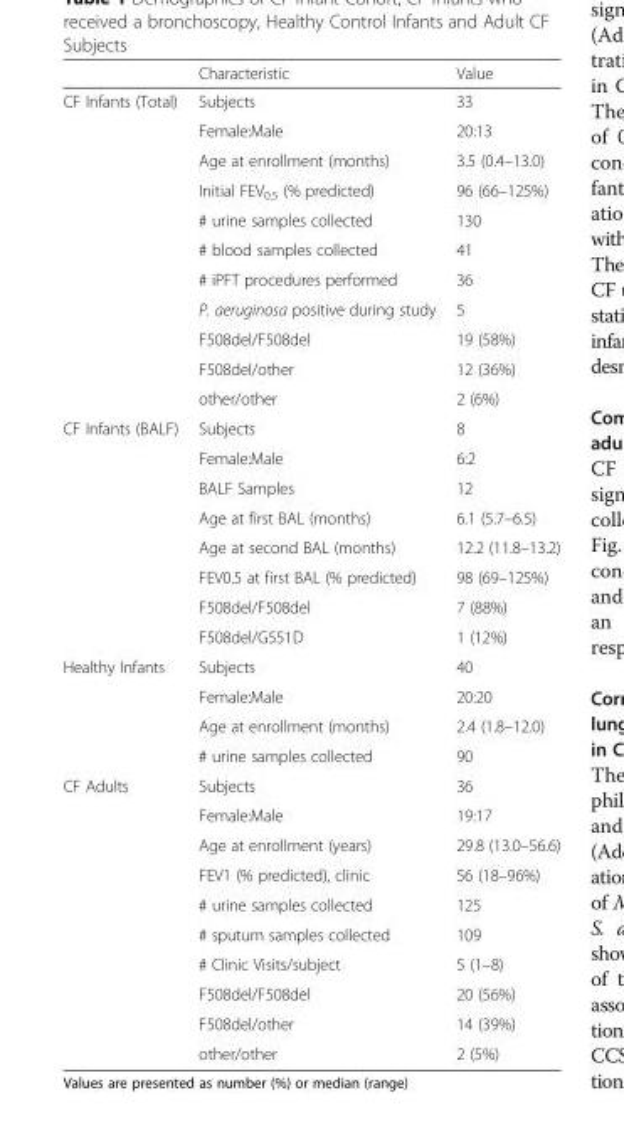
<table><thead><tr><td></td><td>Characteristic</td><td>Value</td></tr></thead><tbody><tr><td rowspan="11">CF Infants (Total)</td><td>Subjects</td><td>33</td></tr><tr><td>Female:Male</td><td>20:13</td></tr><tr><td>Age at enrollment (months)</td><td>3.5 (0.4–13.0)</td></tr><tr><td>Initial FEV<sub>0.5</sub> (% predicted)</td><td>96 (66–125%)</td></tr><tr><td># urine samples collected</td><td>130</td></tr><tr><td># blood samples collected</td><td>41</td></tr><tr><td># iPFT procedures performed</td><td>36</td></tr><tr><td>P. aeruginosa positive during study</td><td>5</td></tr><tr><td>F508del/F508del</td><td>19 (58%)</td></tr><tr><td>F508del/other</td><td>12 (36%)</td></tr><tr><td>other/other</td><td>2 (6%)</td></tr><tr><td rowspan="8">CF Infants (BALF)</td><td>Subjects</td><td>8</td></tr><tr><td>Female:Male</td><td>6:2</td></tr><tr><td>BALF Samples</td><td>12</td></tr><tr><td>Age at first BAL (months)</td><td>6.1 (5.7–6.5)</td></tr><tr><td>Age at second BAL (months)</td><td>12.2 (11.8–13.2)</td></tr><tr><td>FEV0.5 at first BAL (% predicted)</td><td>98 (69–125%)</td></tr><tr><td>F508del/F508del</td><td>7 (88%)</td></tr><tr><td>F508del/G551D</td><td>1 (12%)</td></tr><tr><td rowspan="4">Healthy Infants</td><td>Subjects</td><td>40</td></tr><tr><td>Female:Male</td><td>20:20</td></tr><tr><td>Age at enrollment (months)</td><td>2.4 (1.8–12.0)</td></tr><tr><td># urine samples collected</td><td>90</td></tr><tr><td rowspan="10">CF Adults</td><td>Subjects</td><td>36</td></tr><tr><td>Female:Male</td><td>19:17</td></tr><tr><td>Age at enrollment (years)</td><td>29.8 (13.0–56.6)</td></tr><tr><td>FEV1 (% predicted), clinic</td><td>56 (18–96%)</td></tr><tr><td># urine samples collected</td><td>125</td></tr><tr><td># sputum samples collected</td><td>109</td></tr><tr><td># Clinic Visits/subject</td><td>5 (1–8)</td></tr><tr><td>F508del/F508del</td><td>20 (56%)</td></tr><tr><td>F508del/other</td><td>14 (39%)</td></tr><tr><td>other/other</td><td>2 (5%)</td></tr></tbody></table>